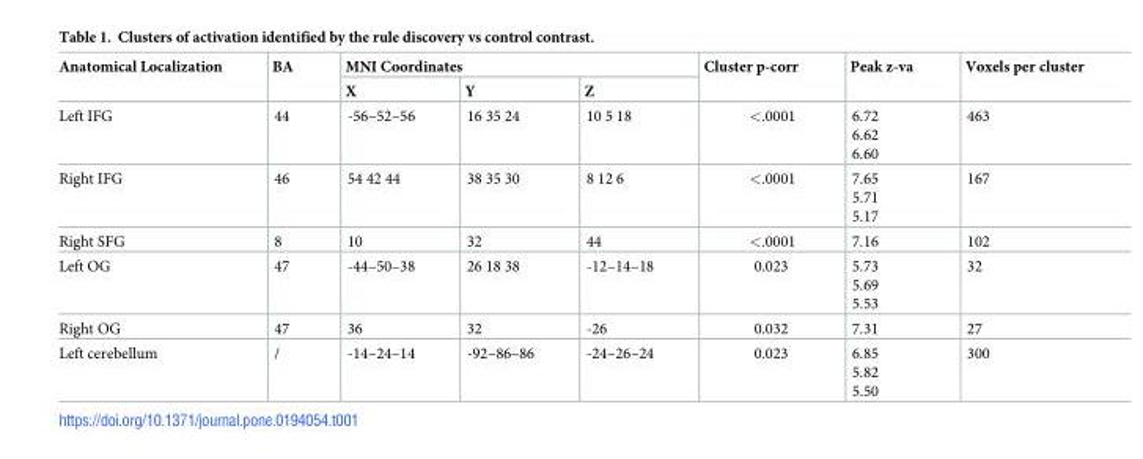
<table><thead><tr><td rowspan="2">Anatomical Localization</td><td rowspan="2">BA</td><td colspan="3">MNI Coordinates</td><td rowspan="2">Cluster p-corr</td><td rowspan="2">Peak z-va</td><td rowspan="2">Voxels per cluster</td></tr><tr><td>X</td><td>Y</td><td>Z</td></tr></thead><tbody><tr><td>Left IFG</td><td>44</td><td>-56–52–56</td><td>16 35 24</td><td>10 5 18</td><td>&lt;.0001</td><td>6.72 6.62 6.60</td><td>463</td></tr><tr><td>Right IFG</td><td>46</td><td>54 42 44</td><td>38 35 30</td><td>8 12 6</td><td>&lt;.0001</td><td>7.65 5.71 5.17</td><td>167</td></tr><tr><td>Right SFG</td><td>8</td><td>10</td><td>32</td><td>44</td><td>&lt;.0001</td><td>7.16</td><td>102</td></tr><tr><td>Left OG</td><td>47</td><td>-44–50–38</td><td>26 18 38</td><td>-12–14–18</td><td>0.023</td><td>5.73 5.69 5.53</td><td>32</td></tr><tr><td>Right OG</td><td>47</td><td>36</td><td>32</td><td>-26</td><td>0.032</td><td>7.31</td><td>27</td></tr><tr><td>Left cerebellum</td><td>/</td><td>-14–24–14</td><td>-92–86–86</td><td>-24–26–24</td><td>0.023</td><td>6.85 5.82 5.50</td><td>300</td></tr></tbody></table>